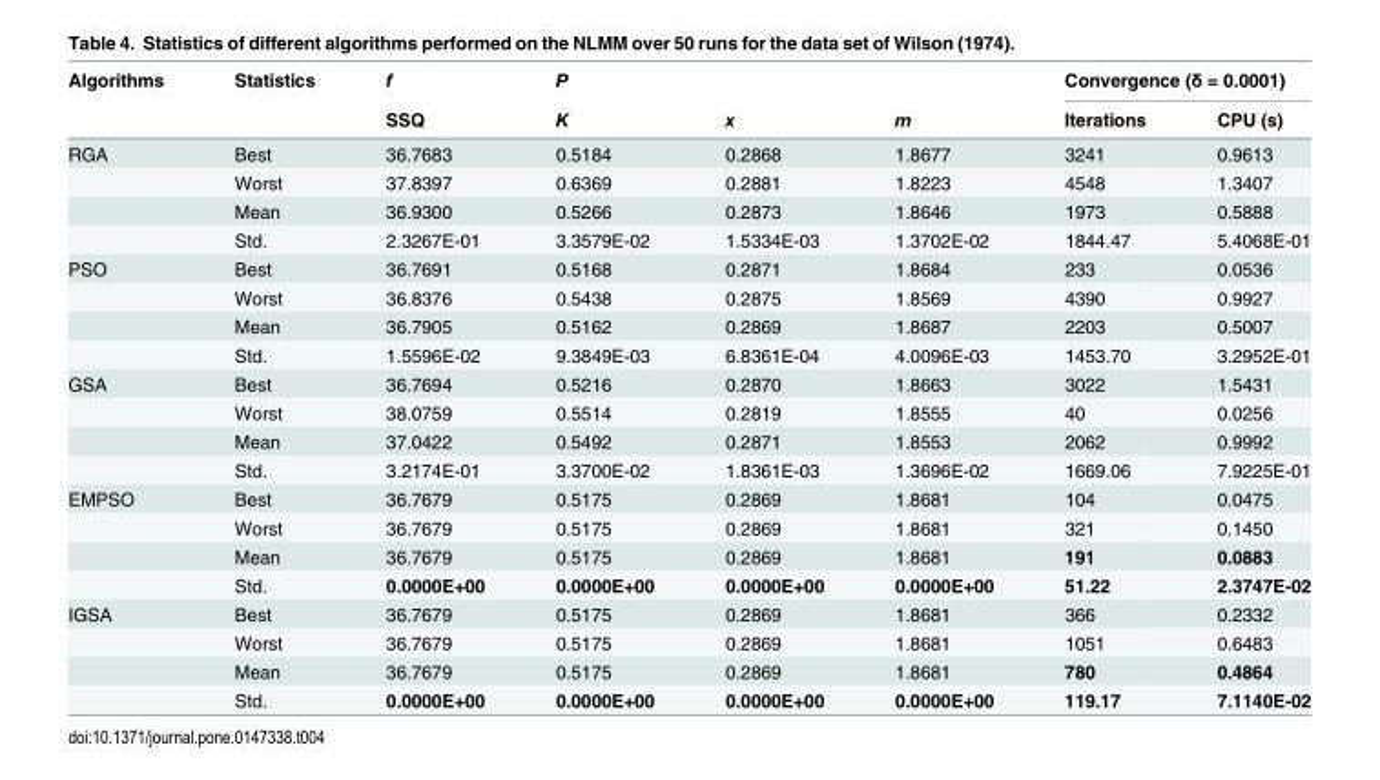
<table><thead><tr><td rowspan="2">Algorithms</td><td rowspan="2">Statistics</td><td rowspan="2">f SSQ</td><td rowspan="2">P K</td><td rowspan="2">x</td><td rowspan="2">m</td><td colspan="2">Convergence (δ = 0.0001)</td></tr><tr><td>Iterations</td><td>CPU (s)</td></tr></thead><tbody><tr><td rowspan="4">RGA</td><td>Best</td><td>36.7683</td><td>0.5184</td><td>0.2868</td><td>1.8677</td><td>3241</td><td>0.9613</td></tr><tr><td>Worst</td><td>37.8397</td><td>0.6369</td><td>0.2881</td><td>1.8223</td><td>4548</td><td>1.3407</td></tr><tr><td>Mean</td><td>36.9300</td><td>0.5266</td><td>0.2873</td><td>1.8646</td><td>1973</td><td>0.5888</td></tr><tr><td>Std.</td><td>2.3267E-01</td><td>3.3579E-02</td><td>1.5334E-03</td><td>1.3702E-02</td><td>1844.47</td><td>5.4068E-01</td></tr><tr><td rowspan="4">PSO</td><td>Best</td><td>36.7691</td><td>0.5168</td><td>0.2871</td><td>1.8684</td><td>233</td><td>0.0536</td></tr><tr><td>Worst</td><td>36.8376</td><td>0.5438</td><td>0.2875</td><td>1.8569</td><td>4390</td><td>0.9927</td></tr><tr><td>Mean</td><td>36.7905</td><td>0.5162</td><td>0.2869</td><td>1.8687</td><td>2203</td><td>0.5007</td></tr><tr><td>Std.</td><td>1.5596E-02</td><td>9.3849E-03</td><td>6.8361E-04</td><td>4.0096E-03</td><td>1453.70</td><td>3.2952E-01</td></tr><tr><td rowspan="4">GSA</td><td>Best</td><td>36.7694</td><td>0.5216</td><td>0.2870</td><td>1.8663</td><td>3022</td><td>1.5431</td></tr><tr><td>Worst</td><td>38.0759</td><td>0.5514</td><td>0.2819</td><td>1.8555</td><td>40</td><td>0.0256</td></tr><tr><td>Mean</td><td>37.0422</td><td>0.5492</td><td>0.2871</td><td>1.8553</td><td>2062</td><td>0.9992</td></tr><tr><td>Std.</td><td>3.2174E-01</td><td>3.3700E-02</td><td>1.8361E-03</td><td>1.3696E-02</td><td>1669.06</td><td>7.9225E-01</td></tr><tr><td rowspan="4">EMPSO</td><td>Best</td><td>36.7679</td><td>0.5175</td><td>0.2869</td><td>1.8681</td><td>104</td><td>0.0475</td></tr><tr><td>Worst</td><td>36.7679</td><td>0.5175</td><td>0.2869</td><td>1.8681</td><td>321</td><td>0.1450</td></tr><tr><td>Mean</td><td>36.7679</td><td>0.5175</td><td>0.2869</td><td>1.8681</td><td>191</td><td>0.0883</td></tr><tr><td>Std.</td><td>0.0000E+00</td><td>0.0000E+00</td><td>0.0000E+00</td><td>0.0000E+00</td><td>51.22</td><td>2.3747E-02</td></tr><tr><td rowspan="4">IGSA</td><td>Best</td><td>36.7679</td><td>0.5175</td><td>0.2869</td><td>1.8681</td><td>366</td><td>0.2332</td></tr><tr><td>Worst</td><td>36.7679</td><td>0.5175</td><td>0.2869</td><td>1.8681</td><td>1051</td><td>0.6483</td></tr><tr><td>Mean</td><td>36.7679</td><td>0.5175</td><td>0.2869</td><td>1.8681</td><td>780</td><td>0.4864</td></tr><tr><td>Std.</td><td>0.0000E+00</td><td>0.0000E+00</td><td>0.0000E+00</td><td>0.0000E+00</td><td>119.17</td><td>7.1140E-02</td></tr></tbody></table>